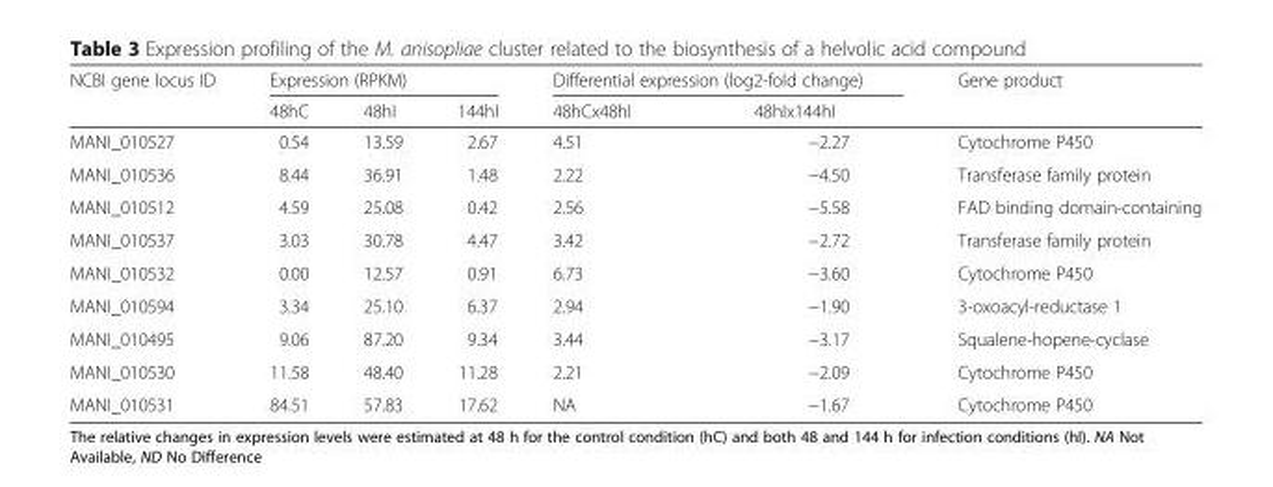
<table><thead><tr><td rowspan="2">NCBI gene locus ID</td><td colspan="3">Expression (RPKM)</td><td colspan="2">Differential expression (log2-fold change)</td><td rowspan="2">Gene product</td></tr><tr><td>48hC</td><td>48hI</td><td>144hI</td><td>48hCx48hI</td><td>48hIx144hI</td></tr></thead><tbody><tr><td>MANI_010527</td><td>0.54</td><td>13.59</td><td>2.67</td><td>4.51</td><td>−2.27</td><td>Cytochrome P450</td></tr><tr><td>MANI_010536</td><td>8.44</td><td>36.91</td><td>1.48</td><td>2.22</td><td>−4.50</td><td>Transferase family protein</td></tr><tr><td>MANI_010512</td><td>4.59</td><td>25.08</td><td>0.42</td><td>2.56</td><td>−5.58</td><td>FAD binding domain-containing</td></tr><tr><td>MANI_010537</td><td>3.03</td><td>30.78</td><td>4.47</td><td>3.42</td><td>−2.72</td><td>Transferase family protein</td></tr><tr><td>MANI_010532</td><td>0.00</td><td>12.57</td><td>0.91</td><td>6.73</td><td>−3.60</td><td>Cytochrome P450</td></tr><tr><td>MANI_010594</td><td>3.34</td><td>25.10</td><td>6.37</td><td>2.94</td><td>−1.90</td><td>3-oxoacyl-reductase 1</td></tr><tr><td>MANI_010495</td><td>9.06</td><td>87.20</td><td>9.34</td><td>3.44</td><td>−3.17</td><td>Squalene-hopene-cyclase</td></tr><tr><td>MANI_010530</td><td>11.58</td><td>48.40</td><td>11.28</td><td>2.21</td><td>−2.09</td><td>Cytochrome P450</td></tr><tr><td>MANI_010531</td><td>84.51</td><td>57.83</td><td>17.62</td><td>NA</td><td>−1.67</td><td>Cytochrome P450</td></tr></tbody></table>